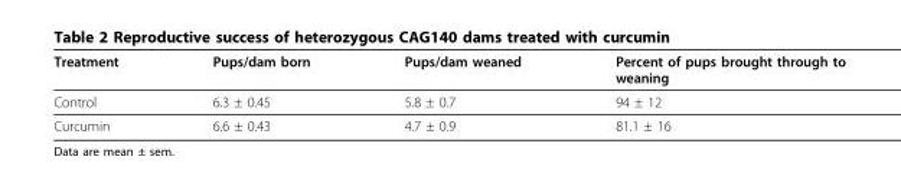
<table><thead><tr><td>Treatment</td><td>Pups/dam born</td><td>Pups/dam weaned</td><td>Percent of pups brought through to weaning</td></tr></thead><tbody><tr><td>Control</td><td>6.3 ± 0.45</td><td>5.8 ± 0.7</td><td>94 ± 12</td></tr><tr><td>Curcumin</td><td>6.6 ± 0.43</td><td>4.7 ± 0.9</td><td>81.1 ± 16</td></tr></tbody></table>